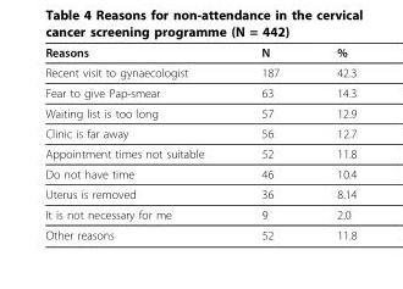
<table><thead><tr><td>Reasons</td><td>N</td><td>%</td></tr></thead><tbody><tr><td>Recent visit to gynaecologist</td><td>187</td><td>42.3</td></tr><tr><td>Fear to give Pap-smear</td><td>63</td><td>14.3</td></tr><tr><td>Waiting list is too long</td><td>57</td><td>12.9</td></tr><tr><td>Clinic is far away</td><td>56</td><td>12.7</td></tr><tr><td>Appointment times not suitable</td><td>52</td><td>11.8</td></tr><tr><td>Do not have time</td><td>46</td><td>10.4</td></tr><tr><td>Uterus is removed</td><td>36</td><td>8.14</td></tr><tr><td>It is not necessary for me</td><td>9</td><td>2.0</td></tr><tr><td>Other reasons</td><td>52</td><td>11.8</td></tr></tbody></table>